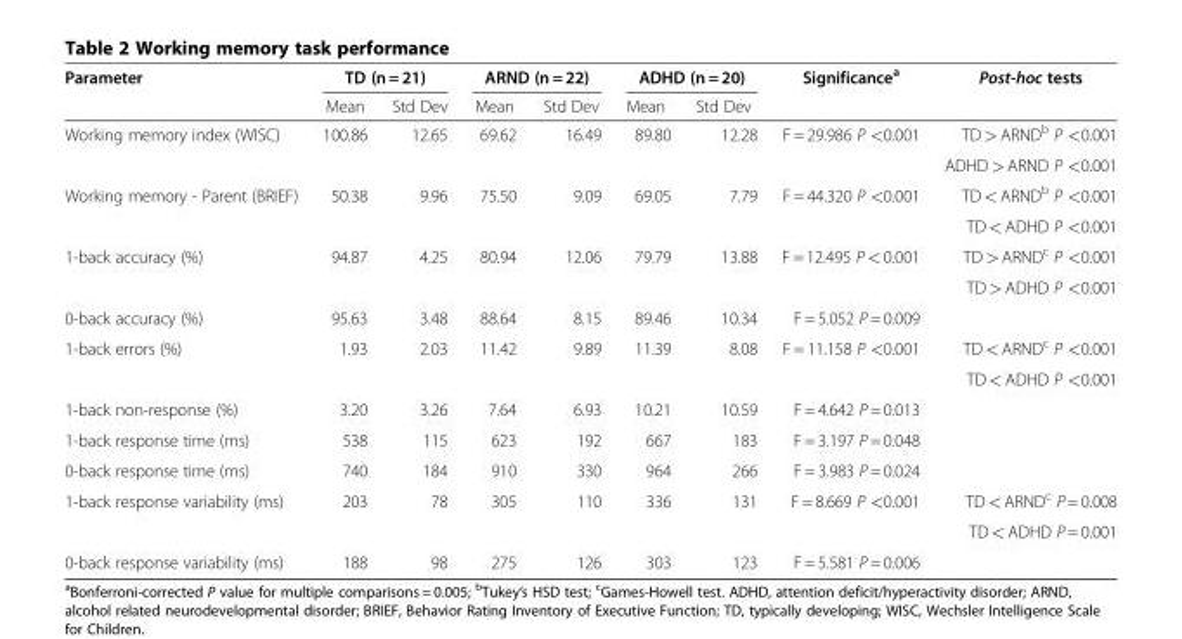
<table><thead><tr><td rowspan="2">Parameter</td><td colspan="2">TD (n = 21)</td><td colspan="2">ARND (n = 22)</td><td colspan="2">ADHD (n = 20)</td><td rowspan="2">Significance<sup>a</sup></td><td rowspan="2">Post-hoc tests</td></tr><tr><td>Mean</td><td>Std Dev</td><td>Mean</td><td>Std Dev</td><td>Mean</td><td>Std Dev</td></tr></thead><tbody><tr><td rowspan="2">Working memory index (WISC)</td><td rowspan="2">100.86</td><td rowspan="2">12.65</td><td rowspan="2">69.62</td><td rowspan="2">16.49</td><td rowspan="2">89.80</td><td rowspan="2">12.28</td><td rowspan="2">F = 29.986 P &lt;0.001</td><td>TD &gt; ARND<sup>b</sup> P &lt;0.001</td></tr><tr><td>ADHD &gt; ARND P &lt;0.001</td></tr><tr><td rowspan="2">Working memory - Parent (BRIEF)</td><td rowspan="2">50.38</td><td rowspan="2">9.96</td><td rowspan="2">75.50</td><td rowspan="2">9.09</td><td rowspan="2">69.05</td><td rowspan="2">7.79</td><td rowspan="2">F = 44.320 P &lt;0.001</td><td>TD &lt; ARND<sup>b</sup> P &lt;0.001</td></tr><tr><td>TD &lt; ADHD P &lt;0.001</td></tr><tr><td rowspan="2">1-back accuracy (%)</td><td rowspan="2">94.87</td><td rowspan="2">4.25</td><td rowspan="2">80.94</td><td rowspan="2">12.06</td><td rowspan="2">79.79</td><td rowspan="2">13.88</td><td rowspan="2">F = 12.495 P &lt; 0.001</td><td>TD &gt; ARND<sup>c</sup> P &lt;0.001</td></tr><tr><td>TD &gt; ADHD P &lt;0.001</td></tr><tr><td>0-back accuracy (%)</td><td>95.63</td><td>3.48</td><td>88.64</td><td>8.15</td><td>89.46</td><td>10.34</td><td>F = 5.052 P = 0.009</td><td></td></tr><tr><td rowspan="2">1-back errors (%)</td><td rowspan="2">1.93</td><td rowspan="2">2.03</td><td rowspan="2">11.42</td><td rowspan="2">9.89</td><td rowspan="2">11.39</td><td rowspan="2">8.08</td><td rowspan="2">F = 11.158 P &lt;0.001</td><td>TD &lt; ARND<sup>c</sup> P &lt;0.001</td></tr><tr><td>TD &lt; ADHD P &lt;0.001</td></tr><tr><td>1-back non-response (%)</td><td>3.20</td><td>3.26</td><td>7.64</td><td>6.93</td><td>10.21</td><td>10.59</td><td>F = 4.642 P = 0.013</td><td></td></tr><tr><td>1-back response time (ms)</td><td>538</td><td>115</td><td>623</td><td>192</td><td>667</td><td>183</td><td>F = 3.197 P = 0.048</td><td></td></tr><tr><td>0-back response time (ms)</td><td>740</td><td>184</td><td>910</td><td>330</td><td>964</td><td>266</td><td>F = 3.983 P = 0.024</td><td></td></tr><tr><td rowspan="2">1-back response variability (ms)</td><td rowspan="2">203</td><td rowspan="2">78</td><td rowspan="2">305</td><td rowspan="2">110</td><td rowspan="2">336</td><td rowspan="2">131</td><td rowspan="2">F = 8.669 P &lt;0.001</td><td>TD &lt; ARND<sup>c</sup> P = 0.008</td></tr><tr><td>TD &lt; ADHD P = 0.001</td></tr><tr><td>0-back response variability (ms)</td><td>188</td><td>98</td><td>275</td><td>126</td><td>303</td><td>123</td><td>F = 5.581 P = 0.006</td><td></td></tr></tbody></table>